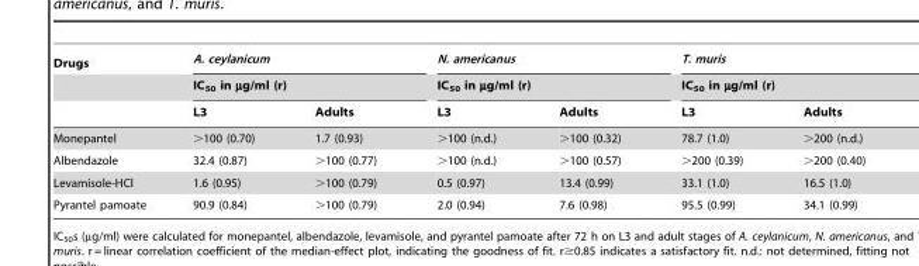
<table><thead><tr><td rowspan="3">Drugs</td><td rowspan="2" colspan="2">A. ceylanicum IC<sub>50</sub> in µg/ml (r)</td><td rowspan="2" colspan="2">N. americanus IC<sub>50</sub> in µg/ml (r)</td><td rowspan="2" colspan="2">T. muris IC<sub>50</sub> in µg/ml (r)</td></tr><tr></tr><tr><td>L3</td><td>Adults</td><td>L3</td><td>Adults</td><td>L3</td><td>Adults</td></tr></thead><tbody><tr><td>Monepantel</td><td>&gt;100 (0.70)</td><td>1.7 (0.93)</td><td>&gt;100 (n.d.)</td><td>&gt;100 (0.32)</td><td>78.7 (1.0)</td><td>&gt;200 (n.d.)</td></tr><tr><td>Albendazole</td><td>32.4 (0.87)</td><td>&gt;100 (0.77)</td><td>&gt;100 (n.d.)</td><td>&gt;100 (0.57)</td><td>&gt;200 (0.39)</td><td>&gt;200 (0.40)</td></tr><tr><td>Levamisole-HCl</td><td>1.6 (0.95)</td><td>&gt;100 (0.79)</td><td>0.5 (0.97)</td><td>13.4 (0.99)</td><td>33.1 (1.0)</td><td>16.5 (1.0)</td></tr><tr><td>Pyrantel pamoate</td><td>90.9 (0.84)</td><td>&gt;100 (0.79)</td><td>2.0 (0.94)</td><td>7.6 (0.98)</td><td>95.5 (0.99)</td><td>34.1 (0.99)</td></tr></tbody></table>